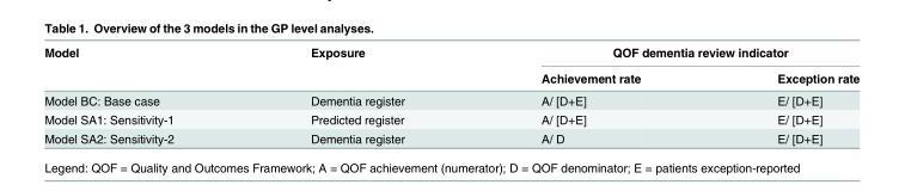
<table><thead><tr><td rowspan="2">Model</td><td rowspan="2">Exposure</td><td colspan="2">QOF dementia review indicator</td></tr><tr><td>Achievement rate</td><td>Exception rate</td></tr></thead><tbody><tr><td>Model BC: Base case</td><td>Dementia register</td><td>A/ [D+E]</td><td>E/ [D+E]</td></tr><tr><td>Model SA1: Sensitivity-1</td><td>Predicted register</td><td>A/ [D+E]</td><td>E/ [D+E]</td></tr><tr><td>Model SA2: Sensitivity-2</td><td>Dementia register</td><td>A/ D</td><td>E/ [D+E]</td></tr></tbody></table>